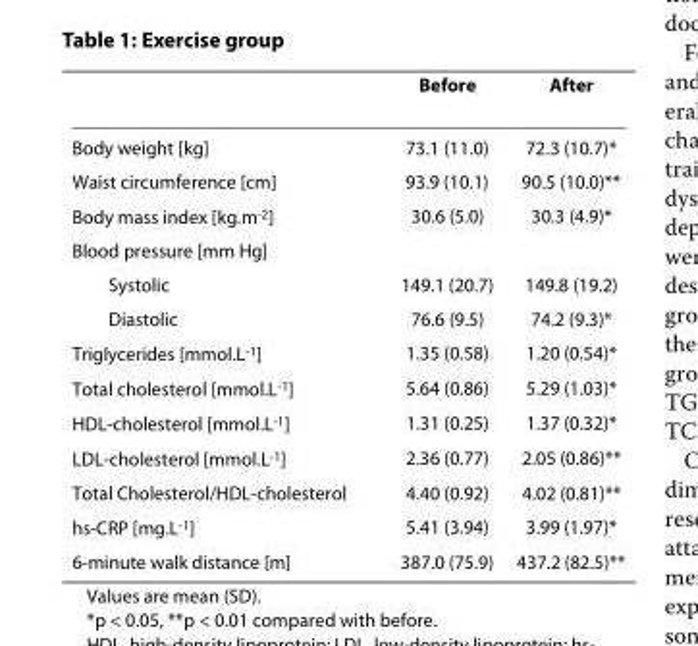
<table><thead><tr><td></td><td>Before</td><td>After</td></tr></thead><tbody><tr><td>Body weight [kg]</td><td>73.1 (11.0)</td><td>72.3 (10.7)*</td></tr><tr><td>Waist circumference [cm]</td><td>93.9 (10.1)</td><td>90.5 (10.0)**</td></tr><tr><td>Body mass index [kg.m<sup>-2</sup>]</td><td>30.6 (5.0)</td><td>30.3 (4.9)*</td></tr><tr><td colspan="3">Blood pressure [mm Hg]</td></tr><tr><td>Systolic</td><td>149.1 (20.7)</td><td>149.8 (19.2)</td></tr><tr><td>Diastolic</td><td>76.6 (9.5)</td><td>74.2 (9.3)*</td></tr><tr><td>Triglycerides [mmol.L<sup>-1</sup>]</td><td>1.35 (0.58)</td><td>1.20 (0.54)*</td></tr><tr><td>Total cholesterol [mmol.L<sup>-1</sup>]</td><td>5.64 (0.86)</td><td>5.29 (1.03)*</td></tr><tr><td>HDL-cholesterol [mmol.L<sup>-1</sup>]</td><td>1.31 (0.25)</td><td>1.37 (0.32)*</td></tr><tr><td>LDL-cholesterol [mmol.L<sup>-1</sup>]</td><td>2.36 (0.77)</td><td>2.05 (0.86)**</td></tr><tr><td>Total Cholesterol/HDL-cholesterol</td><td>4.40 (0.92)</td><td>4.02 (0.81)**</td></tr><tr><td>hs-CRP [mg.L<sup>-1</sup>]</td><td>5.41 (3.94)</td><td>3.99 (1.97)*</td></tr><tr><td>6-minute walk distance [m]</td><td>387.0 (75.9)</td><td>437.2 (82.5)**</td></tr></tbody></table>